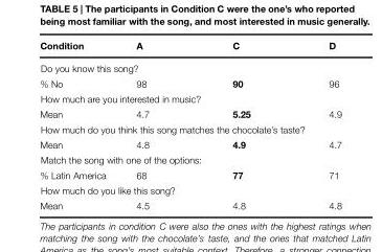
<table><thead><tr><td>Condition</td><td>A</td><td>C</td><td>D</td></tr></thead><tbody><tr><td colspan="4">Do you know this song?</td></tr><tr><td>% No</td><td>98</td><td>90</td><td>96</td></tr><tr><td colspan="4">How much are you interested in music?</td></tr><tr><td>Mean</td><td>4.7</td><td>5.25</td><td>4.9</td></tr><tr><td colspan="4">How much do you think this song matches the chocolate’s taste?</td></tr><tr><td>Mean</td><td>4.8</td><td>4.9</td><td>4.7</td></tr><tr><td colspan="4">Match the song with one of the options:</td></tr><tr><td>% Latin America</td><td>68</td><td>77</td><td>71</td></tr><tr><td colspan="4">How much do you like this song?</td></tr><tr><td>Mean</td><td>4.5</td><td>4.8</td><td>4.8</td></tr></tbody></table>